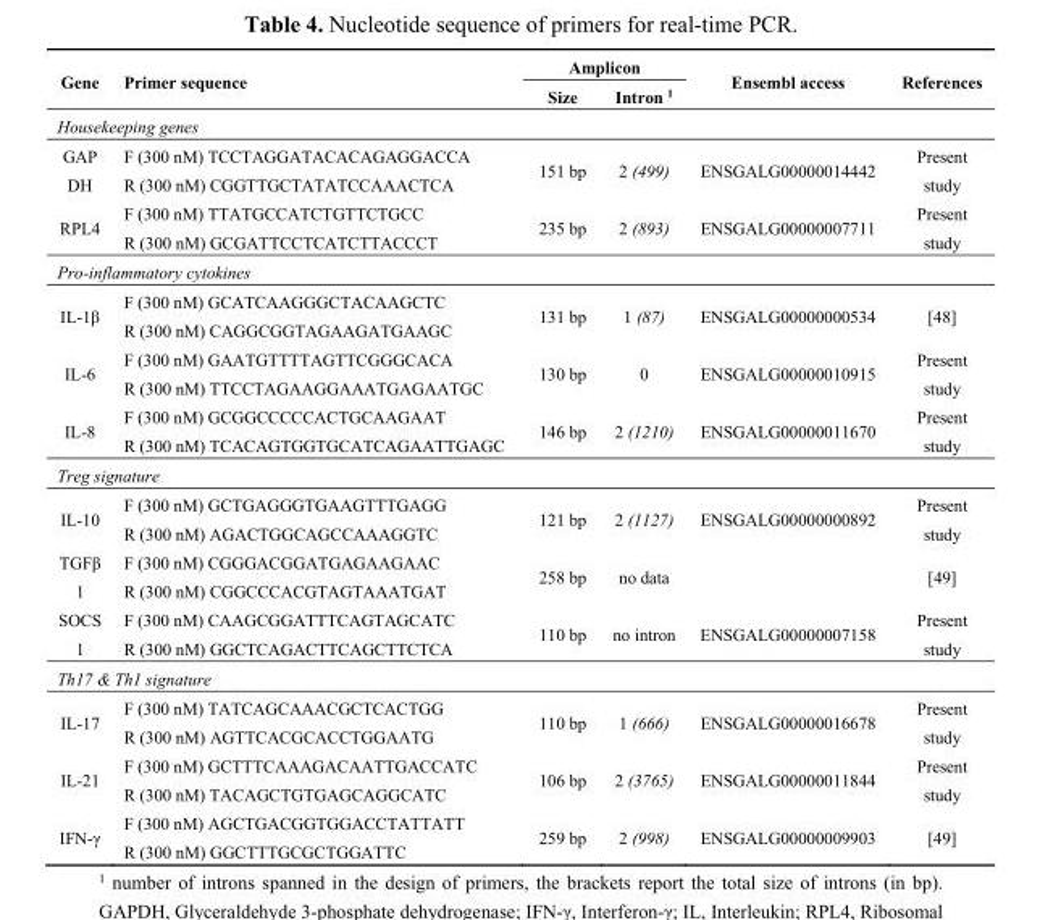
<table><thead><tr><td rowspan="2">Gene</td><td rowspan="2">Primer sequence</td><td colspan="2">Amplicon</td><td rowspan="2">Ensembl access</td><td rowspan="2">References</td></tr><tr><td>Size</td><td>Intron <sup>1</sup></td></tr></thead><tbody><tr><td colspan="6">Housekeeping genes</td></tr><tr><td>GAP DH</td><td>F (300 nM) TCCTAGGATACACAGAGGACCA R (300 nM) CGGTTGCTATATCCAAACTCA</td><td>151 bp</td><td>2 (499)</td><td>ENSGALG00000014442</td><td>Present study</td></tr><tr><td>RPL4</td><td>F (300 nM) TTATGCCATCTGTTCTGCC R (300 nM) GCGATTCCTCATCTTACCCT</td><td>235 bp</td><td>2 (893)</td><td>ENSGALG00000007711</td><td>Present study</td></tr><tr><td colspan="6">Pro-inflammatory cytokines</td></tr><tr><td>IL-1β</td><td>F (300 nM) GCATCAAGGGCTACAAGCTC R (300 nM) CAGGCGGTAGAAGATGAAGC</td><td>131 bp</td><td>1 (87)</td><td>ENSGALG00000000534</td><td>[48]</td></tr><tr><td>IL-6</td><td>F (300 nM) GAATGTTTTAGTTCGGGCACA R (300 nM) TTCCTAGAAGGAAATGAGAATGC</td><td>130 bp</td><td>0</td><td>ENSGALG00000010915</td><td>Present study</td></tr><tr><td>IL-8</td><td>F (300 nM) GCGGCCCCCACTGCAAGAAT R (300 nM) TCACAGTGGTGCATCAGAATTGAGC</td><td>146 bp</td><td>2 (1210)</td><td>ENSGALG00000011670</td><td>Present study</td></tr><tr><td colspan="6">Treg signature</td></tr><tr><td>IL-10</td><td>F (300 nM) GCTGAGGGTGAAGTTTGAGG R (300 nM) AGACTGGCAGCCAAAGGTC</td><td>121 bp</td><td>2 (1127)</td><td>ENSGALG00000000892</td><td>Present study</td></tr><tr><td>TGFβ 1</td><td>F (300 nM) CGGGACGGATGAGAAGAAC R (300 nM) CGGCCCACGTAGTAAATGAT</td><td>258 bp</td><td>no data</td><td></td><td>[49]</td></tr><tr><td>SOCS 1</td><td>F (300 nM) CAAGCGGATTTCAGTAGCATC R (300 nM) GGCTCAGACTTCAGCTTCTCA</td><td>110 bp</td><td>no intron</td><td>ENSGALG00000007158</td><td>Present study</td></tr><tr><td colspan="6">Th17 &amp; Th1 signature</td></tr><tr><td>IL-17</td><td>F (300 nM) TATCAGCAAACGCTCACTGG R (300 nM) AGTTCACGCACCTGGAATG</td><td>110 bp</td><td>1 (666)</td><td>ENSGALG00000016678</td><td>Present study</td></tr><tr><td>IL-21</td><td>F (300 nM) GCTTTCAAAGACAATTGACCATC R (300 nM) TACAGCTGTGAGCAGGCATC</td><td>106 bp</td><td>2 (3765)</td><td>ENSGALG00000011844</td><td>Present study</td></tr><tr><td>IFN-γ</td><td>F (300 nM) AGCTGACGGTGGACCTATTATT R (300 nM) GGCTTTGCGCTGGATTC</td><td>259 bp</td><td>2 (998)</td><td>ENSGALG00000009903</td><td>[49]</td></tr></tbody></table>